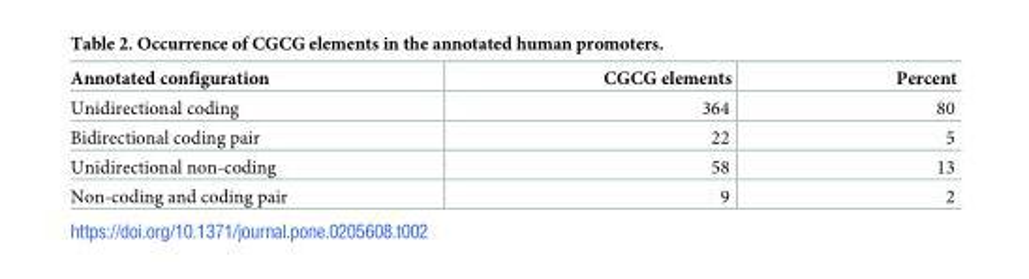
<table><thead><tr><td>Annotated configuration</td><td>CGCG elements</td><td>Percent</td></tr></thead><tbody><tr><td>Unidirectional coding</td><td>364</td><td>80</td></tr><tr><td>Bidirectional coding pair</td><td>22</td><td>5</td></tr><tr><td>Unidirectional non-coding</td><td>58</td><td>13</td></tr><tr><td>Non-coding and coding pair</td><td>9</td><td>2</td></tr></tbody></table>